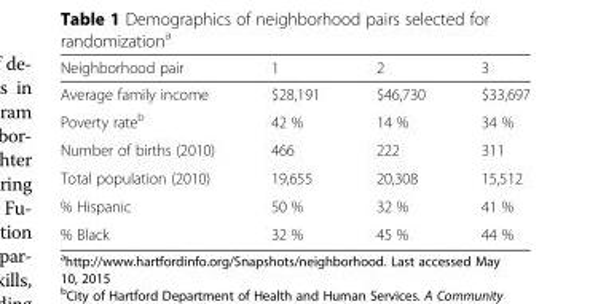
<table><thead><tr><td>Neighborhood pair</td><td>1</td><td>2</td><td>3</td></tr></thead><tbody><tr><td>Average family income</td><td>$28,191</td><td>$46,730</td><td>$33,697</td></tr><tr><td>Poverty rate<sup>b</sup></td><td>42 %</td><td>14 %</td><td>34 %</td></tr><tr><td>Number of births (2010)</td><td>466</td><td>222</td><td>311</td></tr><tr><td>Total population (2010)</td><td>19,655</td><td>20,308</td><td>15,512</td></tr><tr><td>% Hispanic</td><td>50 %</td><td>32 %</td><td>41 %</td></tr><tr><td>% Black</td><td>32 %</td><td>45 %</td><td>44 %</td></tr></tbody></table>